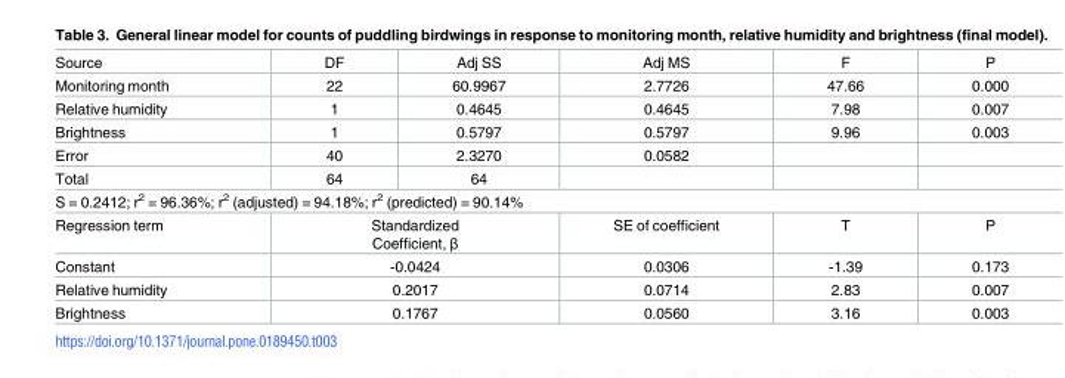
<table><tbody><tr><td>Source</td><td>DF</td><td>Adj SS</td><td>Adj MS</td><td>F</td><td>P</td></tr><tr><td>Monitoring month</td><td>22</td><td>60.9967</td><td>2.7726</td><td>47.66</td><td>0.000</td></tr><tr><td>Relative humidity</td><td>1</td><td>0.4645</td><td>0.4645</td><td>7.98</td><td>0.007</td></tr><tr><td>Brightness</td><td>1</td><td>0.5797</td><td>0.5797</td><td>9.96</td><td>0.003</td></tr><tr><td>Error</td><td>40</td><td>2.3270</td><td>0.0582</td><td></td><td></td></tr><tr><td>Total</td><td>64</td><td>64</td><td></td><td></td><td></td></tr><tr><td colspan="6">S = 0.2412; r<sup>2</sup> = 96.36%; r<sup>2</sup> (adjusted) = 94.18%; r<sup>2</sup> (predicted) = 90.14%</td></tr><tr><td>Regression term</td><td colspan="2">Standardized Coefficient, β</td><td>SE of coefficient</td><td>T</td><td>P</td></tr><tr><td>Constant</td><td colspan="2">-0.0424</td><td>0.0306</td><td>-1.39</td><td>0.173</td></tr><tr><td>Relative humidity</td><td colspan="2">0.2017</td><td>0.0714</td><td>2.83</td><td>0.007</td></tr><tr><td>Brightness</td><td colspan="2">0.1767</td><td>0.0560</td><td>3.16</td><td>0.003</td></tr></tbody></table>